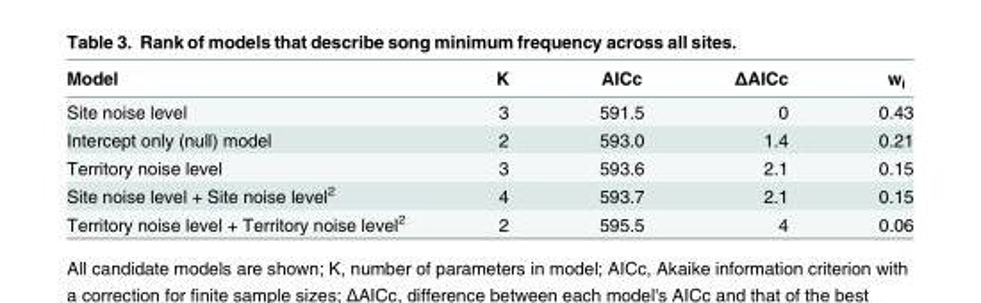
<table><thead><tr><td>Model</td><td>K</td><td>AICc</td><td>ΔAICc</td><td>w<sub>i</sub></td></tr></thead><tbody><tr><td>Site noise level</td><td>3</td><td>591.5</td><td>0</td><td>0.43</td></tr><tr><td>Intercept only (null) model</td><td>2</td><td>593.0</td><td>1.4</td><td>0.21</td></tr><tr><td>Territory noise level</td><td>3</td><td>593.6</td><td>2.1</td><td>0.15</td></tr><tr><td>Site noise level + Site noise level<sup>2</sup></td><td>4</td><td>593.7</td><td>2.1</td><td>0.15</td></tr><tr><td>Territory noise level + Territory noise level<sup>2</sup></td><td>2</td><td>595.5</td><td>4</td><td>0.06</td></tr></tbody></table>